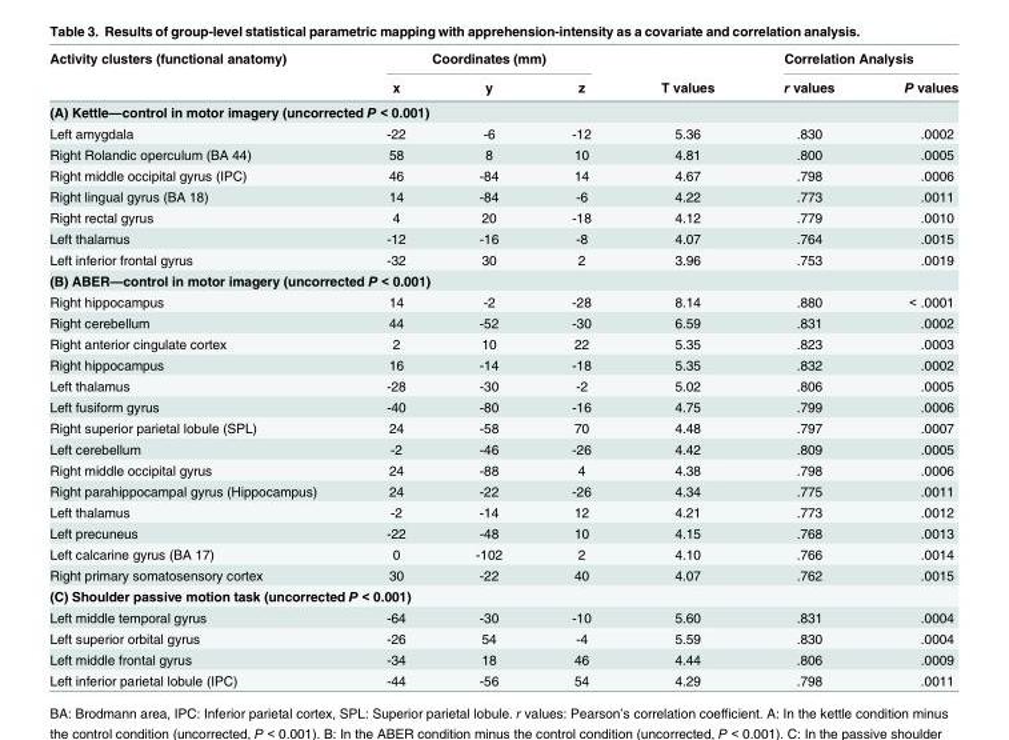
<table><thead><tr><td rowspan="2">Activity clusters (functional anatomy)</td><td colspan="3">Coordinates (mm)</td><td rowspan="2">T values</td><td colspan="2">Correlation Analysis</td></tr><tr><td>x</td><td>y</td><td>z</td><td>r values</td><td>P values</td></tr></thead><tbody><tr><td colspan="7">(A) Kettle—control in motor imagery (uncorrected P &lt; 0.001)</td></tr><tr><td>Left amygdala</td><td>-22</td><td>-6</td><td>-12</td><td>5.36</td><td>.830</td><td>.0002</td></tr><tr><td>Right Rolandic operculum (BA 44)</td><td>58</td><td>8</td><td>10</td><td>4.81</td><td>.800</td><td>.0005</td></tr><tr><td>Right middle occipital gyrus (IPC)</td><td>46</td><td>-84</td><td>14</td><td>4.67</td><td>.798</td><td>.0006</td></tr><tr><td>Right lingual gyrus (BA 18)</td><td>14</td><td>-84</td><td>-6</td><td>4.22</td><td>.773</td><td>.0011</td></tr><tr><td>Right rectal gyrus</td><td>4</td><td>20</td><td>-18</td><td>4.12</td><td>.779</td><td>.0010</td></tr><tr><td>Left thalamus</td><td>-12</td><td>-16</td><td>-8</td><td>4.07</td><td>.764</td><td>.0015</td></tr><tr><td>Left inferior frontal gyrus</td><td>-32</td><td>30</td><td>2</td><td>3.96</td><td>.753</td><td>.0019</td></tr><tr><td colspan="7">(B) ABER—control in motor imagery (uncorrected P &lt; 0.001)</td></tr><tr><td>Right hippocampus</td><td>14</td><td>-2</td><td>-28</td><td>8.14</td><td>.880</td><td>&lt; .0001</td></tr><tr><td>Right cerebellum</td><td>44</td><td>-52</td><td>-30</td><td>6.59</td><td>.831</td><td>.0002</td></tr><tr><td>Right anterior cingulate cortex</td><td>2</td><td>10</td><td>22</td><td>5.35</td><td>.823</td><td>.0003</td></tr><tr><td>Right hippocampus</td><td>16</td><td>-14</td><td>-18</td><td>5.35</td><td>.832</td><td>.0002</td></tr><tr><td>Left thalamus</td><td>-28</td><td>-30</td><td>-2</td><td>5.02</td><td>.806</td><td>.0005</td></tr><tr><td>Left fusiform gyrus</td><td>-40</td><td>-80</td><td>-16</td><td>4.75</td><td>.799</td><td>.0006</td></tr><tr><td>Right superior parietal lobule (SPL)</td><td>24</td><td>-58</td><td>70</td><td>4.48</td><td>.797</td><td>.0007</td></tr><tr><td>Left cerebellum</td><td>-2</td><td>-46</td><td>-26</td><td>4.42</td><td>.809</td><td>.0005</td></tr><tr><td>Right middle occipital gyrus</td><td>24</td><td>-88</td><td>4</td><td>4.38</td><td>.798</td><td>.0006</td></tr><tr><td>Right parahippocampal gyrus (Hippocampus)</td><td>24</td><td>-22</td><td>-26</td><td>4.34</td><td>.775</td><td>.0011</td></tr><tr><td>Left thalamus</td><td>-2</td><td>-14</td><td>12</td><td>4.21</td><td>.773</td><td>.0012</td></tr><tr><td>Left precuneus</td><td>-22</td><td>-48</td><td>10</td><td>4.15</td><td>.768</td><td>.0013</td></tr><tr><td>Left calcarine gyrus (BA 17)</td><td>0</td><td>-102</td><td>2</td><td>4.10</td><td>.766</td><td>.0014</td></tr><tr><td>Right primary somatosensory cortex</td><td>30</td><td>-22</td><td>40</td><td>4.07</td><td>.762</td><td>.0015</td></tr><tr><td colspan="7">(C) Shoulder passive motion task (uncorrected P &lt; 0.001)</td></tr><tr><td>Left middle temporal gyrus</td><td>-64</td><td>-30</td><td>-10</td><td>5.60</td><td>.831</td><td>.0004</td></tr><tr><td>Left superior orbital gyrus</td><td>-26</td><td>54</td><td>-4</td><td>5.59</td><td>.830</td><td>.0004</td></tr><tr><td>Left middle frontal gyrus</td><td>-34</td><td>18</td><td>46</td><td>4.44</td><td>.806</td><td>.0009</td></tr><tr><td>Left inferior parietal lobule (IPC)</td><td>-44</td><td>-56</td><td>54</td><td>4.29</td><td>.798</td><td>.0011</td></tr></tbody></table>